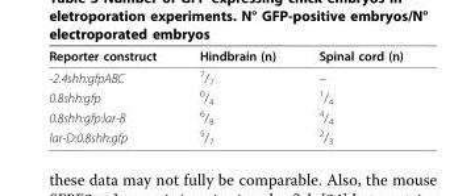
<table><thead><tr><td>Reporter construct</td><td>Hindbrain (n)</td><td>Spinal cord (n)</td></tr></thead><tbody><tr><td>-2.4shh:gfpABC</td><td><sup>7</sup>/<sub>7</sub></td><td>–</td></tr><tr><td>0.8shh:gfp</td><td><sup>0</sup>/<sub>4</sub></td><td><sup>1</sup>/<sub>4</sub></td></tr><tr><td>0.8shh:gfp:lar-B</td><td><sup>6</sup>/<sub>8</sub></td><td><sup>4</sup>/<sub>4</sub></td></tr><tr><td>lar-D:0.8shh:gfp</td><td><sup>5</sup>/<sub>7</sub></td><td><sup>2</sup>/<sub>3</sub></td></tr></tbody></table>